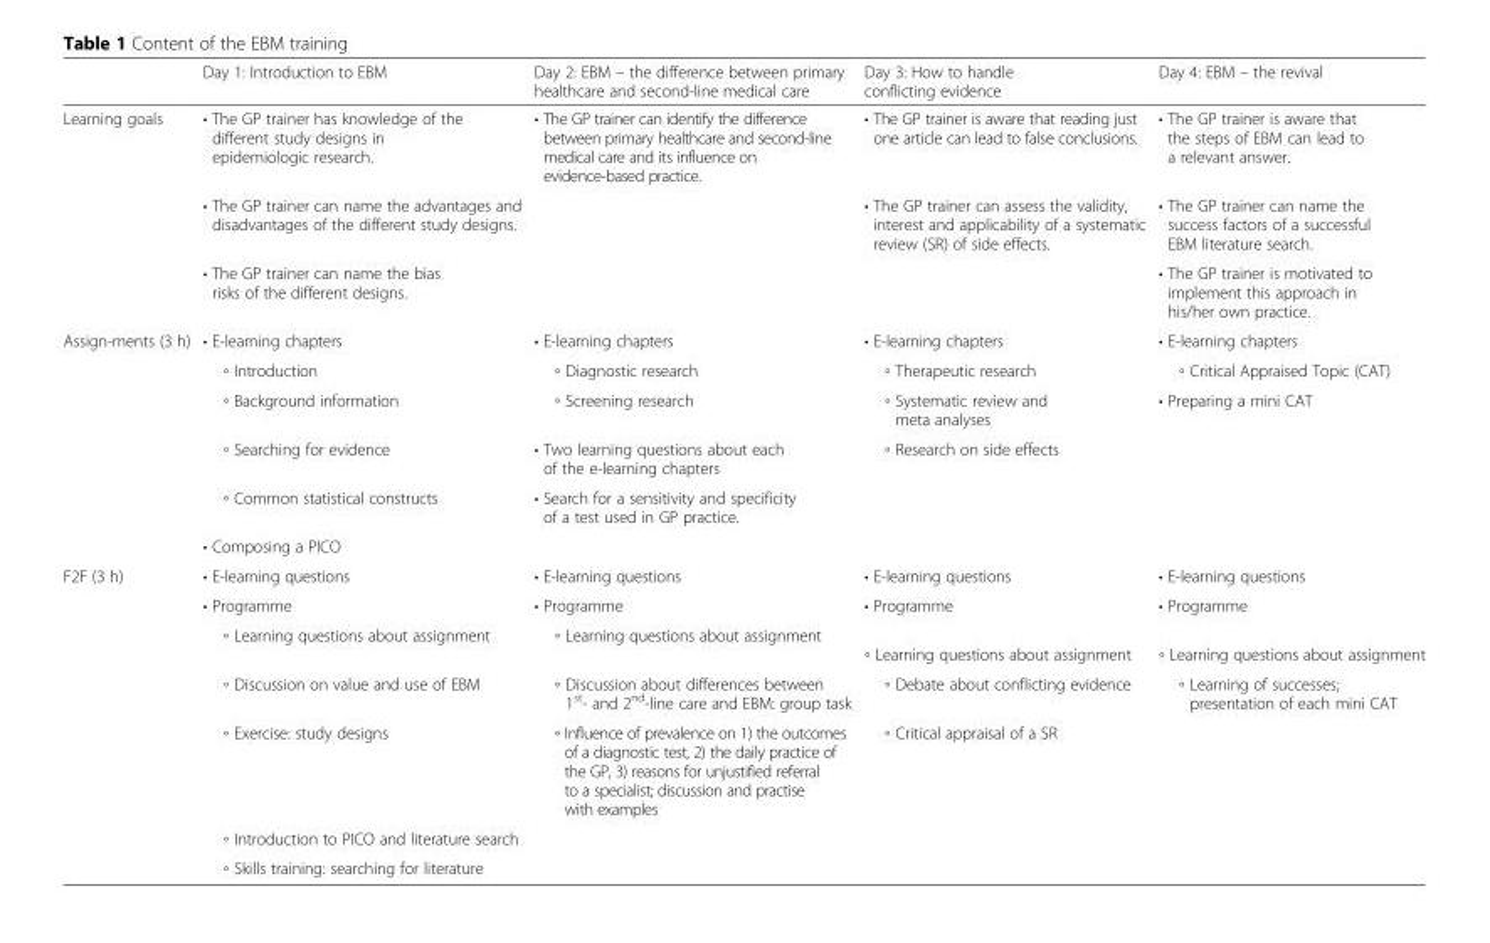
<table><thead><tr><td></td><td>Day 1: Introduction to EBM</td><td>Day 2: EBM – the difference between primary healthcare and second-line medical care</td><td>Day 3: How to handle conflicting evidence</td><td>Day 4: EBM – the revival</td></tr></thead><tbody><tr><td rowspan="3">Learning goals</td><td>• The GP trainer has knowledge of the different study designs in epidemiologic research.</td><td>• The GP trainer can identify the difference between primary healthcare and second-line medical care and its influence on evidence-based practice.</td><td>• The GP trainer is aware that reading just one article can lead to false conclusions.</td><td>• The GP trainer is aware that the steps of EBM can lead to a relevant answer.</td></tr><tr><td>• The GP trainer can name the advantages and disadvantages of the different study designs.</td><td></td><td>• The GP trainer can assess the validity, interest and applicability of a systematic review (SR) of side effects.</td><td>• The GP trainer can name the success factors of a successful EBM literature search.</td></tr><tr><td>• The GP trainer can name the bias risks of the different designs.</td><td></td><td></td><td>• The GP trainer is motivated to implement this approach in his/her own practice.</td></tr><tr><td rowspan="6">Assign-ments (3 h)</td><td>• E-learning chapters</td><td>• E-learning chapters</td><td>• E-learning chapters</td><td>• E-learning chapters</td></tr><tr><td>◦ Introduction</td><td>◦ Diagnostic research</td><td>◦ Therapeutic research</td><td>◦ Critical Appraised Topic (CAT)</td></tr><tr><td>◦ Background information</td><td>◦ Screening research</td><td>◦ Systematic review and meta analyses</td><td>• Preparing a mini CAT</td></tr><tr><td>◦ Searching for evidence</td><td>• Two learning questions about each of the e-learning chapters</td><td>◦ Research on side effects</td><td></td></tr><tr><td>◦ Common statistical constructs</td><td>• Search for a sensitivity and specificity of a test used in GP practice.</td><td></td><td></td></tr><tr><td>• Composing a PICO</td><td></td><td></td><td></td></tr><tr><td rowspan="7">F2F (3 h)</td><td>• E-learning questions</td><td>• E-learning questions</td><td>• E-learning questions</td><td>• E-learning questions</td></tr><tr><td>• Programme</td><td>• Programme</td><td>• Programme</td><td>• Programme</td></tr><tr><td>◦ Learning questions about assignment</td><td>◦ Learning questions about assignment</td><td>◦ Learning questions about assignment</td><td>◦ Learning questions about assignment</td></tr><tr><td>◦ Discussion on value and use of EBM</td><td>◦ Discussion about differences between 1<sup>st</sup>- and 2<sup>nd</sup>-line care and EBM: group task</td><td>◦ Debate about conflicting evidence</td><td>◦ Learning of successes; presentation of each mini CAT</td></tr><tr><td>◦ Exercise: study designs</td><td>◦ Influence of prevalence on 1) the outcomes of a diagnostic test, 2) the daily practice of the GP, 3) reasons for unjustified referral to a specialist; discussion and practise with examples</td><td>◦ Critical appraisal of a SR</td><td></td></tr><tr><td>◦ Introduction to PICO and literature search</td><td></td><td></td><td></td></tr><tr><td>◦ Skills training: searching for literature</td><td></td><td></td><td></td></tr></tbody></table>